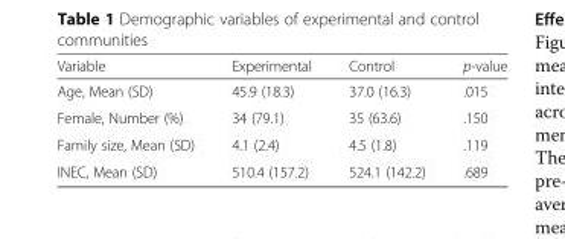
<table><thead><tr><td>Variable</td><td>Experimental</td><td>Control</td><td>p-value</td></tr></thead><tbody><tr><td>Age, Mean (SD)</td><td>45.9 (18.3)</td><td>37.0 (16.3)</td><td>.015</td></tr><tr><td>Female, Number (%)</td><td>34 (79.1)</td><td>35 (63.6)</td><td>.150</td></tr><tr><td>Family size, Mean (SD)</td><td>4.1 (2.4)</td><td>4.5 (1.8)</td><td>.119</td></tr><tr><td>INEC, Mean (SD)</td><td>510.4 (157.2)</td><td>524.1 (142.2)</td><td>.689</td></tr></tbody></table>